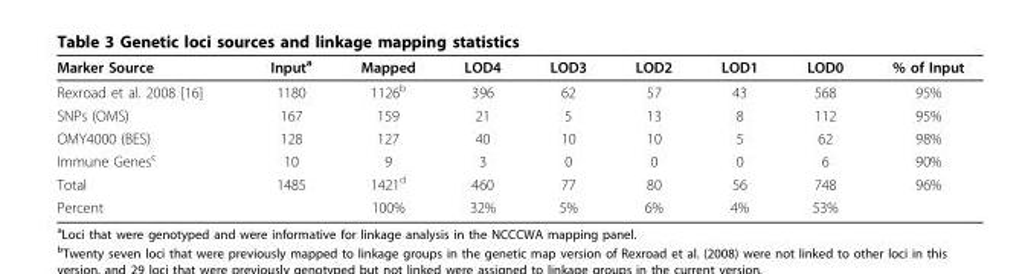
<table><thead><tr><td>Marker Source</td><td>Input<sup>a</sup></td><td>Mapped</td><td>LOD4</td><td>LOD3</td><td>LOD2</td><td>LOD1</td><td>LOD0</td><td>% of Input</td></tr></thead><tbody><tr><td>Rexroad et al. 2008 [16]</td><td>1180</td><td>1126<sup>b</sup></td><td>396</td><td>62</td><td>57</td><td>43</td><td>568</td><td>95%</td></tr><tr><td>SNPs (OMS)</td><td>167</td><td>159</td><td>21</td><td>5</td><td>13</td><td>8</td><td>112</td><td>95%</td></tr><tr><td>OMY4000 (BES)</td><td>128</td><td>127</td><td>40</td><td>10</td><td>10</td><td>5</td><td>62</td><td>98%</td></tr><tr><td>Immune Genes<sup>c</sup></td><td>10</td><td>9</td><td>3</td><td>0</td><td>0</td><td>0</td><td>6</td><td>90%</td></tr><tr><td>Total</td><td>1485</td><td>1421<sup>d</sup></td><td>460</td><td>77</td><td>80</td><td>56</td><td>748</td><td>96%</td></tr><tr><td>Percent</td><td></td><td>100%</td><td>32%</td><td>5%</td><td>6%</td><td>4%</td><td>53%</td><td></td></tr></tbody></table>